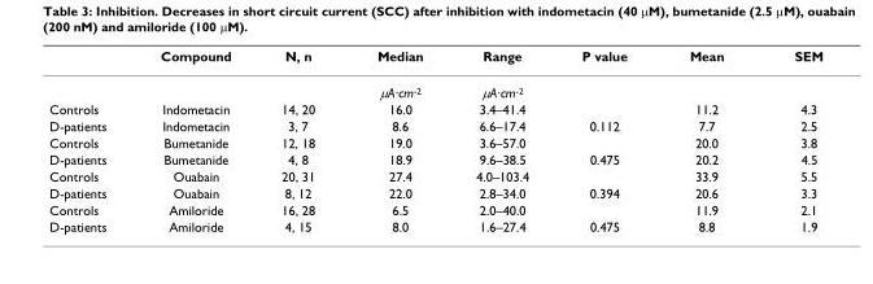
<table><thead><tr><td></td><td>Compound</td><td>N, n</td><td>Median</td><td>Range</td><td>P value</td><td>Mean</td><td>SEM</td></tr></thead><tbody><tr><td></td><td></td><td></td><td>μA·cm<sup>-2</sup></td><td>μA·cm<sup>-2</sup></td><td></td><td></td><td></td></tr><tr><td>Controls</td><td>Indometacin</td><td>14, 20</td><td>16.0</td><td>3.4–41.4</td><td></td><td>11.2</td><td>4.3</td></tr><tr><td>D-patients</td><td>Indometacin</td><td>3, 7</td><td>8.6</td><td>6.6–17.4</td><td>0.112</td><td>7.7</td><td>2.5</td></tr><tr><td>Controls</td><td>Bumetanide</td><td>12, 18</td><td>19.0</td><td>3.6–57.0</td><td></td><td>20.0</td><td>3.8</td></tr><tr><td>D-patients</td><td>Bumetanide</td><td>4, 8</td><td>18.9</td><td>9.6–38.5</td><td>0.475</td><td>20.2</td><td>4.5</td></tr><tr><td>Controls</td><td>Ouabain</td><td>20, 31</td><td>27.4</td><td>4.0–103.4</td><td></td><td>33.9</td><td>5.5</td></tr><tr><td>D-patients</td><td>Ouabain</td><td>8, 12</td><td>22.0</td><td>2.8–34.0</td><td>0.394</td><td>20.6</td><td>3.3</td></tr><tr><td>Controls</td><td>Amiloride</td><td>16, 28</td><td>6.5</td><td>2.0–40.0</td><td></td><td>11.9</td><td>2.1</td></tr><tr><td>D-patients</td><td>Amiloride</td><td>4, 15</td><td>8.0</td><td>1.6–27.4</td><td>0.475</td><td>8.8</td><td>1.9</td></tr></tbody></table>